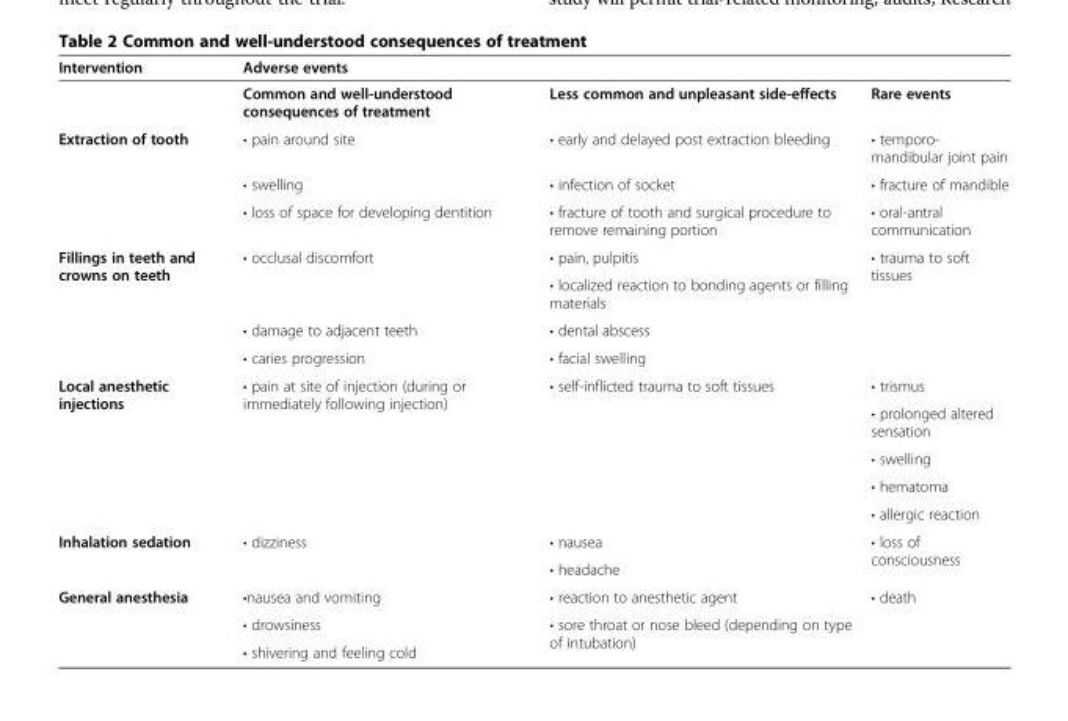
<table><thead><tr><td rowspan="2">Intervention</td><td colspan="3">Adverse events</td></tr><tr><td>Common and well-understood consequences of treatment</td><td>Less common and unpleasant side-effects</td><td>Rare events</td></tr></thead><tbody><tr><td rowspan="3">Extraction of tooth</td><td>• pain around site</td><td>• early and delayed post extraction bleeding</td><td>• temporo- mandibular joint pain</td></tr><tr><td>• swelling</td><td>• infection of socket</td><td>• fracture of mandible</td></tr><tr><td>• loss of space for developing dentition</td><td>• fracture of tooth and surgical procedure to remove remaining portion</td><td>• oral-antral communication</td></tr><tr><td rowspan="4">Fillings in teeth and crowns on teeth</td><td rowspan="2">• occlusal discomfort</td><td>• pain, pulpitis</td><td rowspan="4">• trauma to soft tissues</td></tr><tr><td>• localized reaction to bonding agents or filling materials</td></tr><tr><td>• damage to adjacent teeth</td><td>• dental abscess</td></tr><tr><td>• caries progression</td><td>• facial swelling</td></tr><tr><td rowspan="5">Local anesthetic injections</td><td rowspan="5">• pain at site of injection (during or immediately following injection)</td><td rowspan="5">• self-inflicted trauma to soft tissues</td><td>• trismus</td></tr><tr><td>• prolonged altered sensation</td></tr><tr><td>• swelling</td></tr><tr><td>• hematoma</td></tr><tr><td>• allergic reaction</td></tr><tr><td rowspan="2">Inhalation sedation</td><td rowspan="2">• dizziness</td><td>• nausea</td><td rowspan="2">• loss of consciousness</td></tr><tr><td>• headache</td></tr><tr><td rowspan="3">General anesthesia</td><td>•nausea and vomiting</td><td>• reaction to anesthetic agent</td><td rowspan="3">• death</td></tr><tr><td>• drowsiness</td><td rowspan="2">• sore throat or nose bleed (depending on type of intubation)</td></tr><tr><td>• shivering and feeling cold</td></tr></tbody></table>